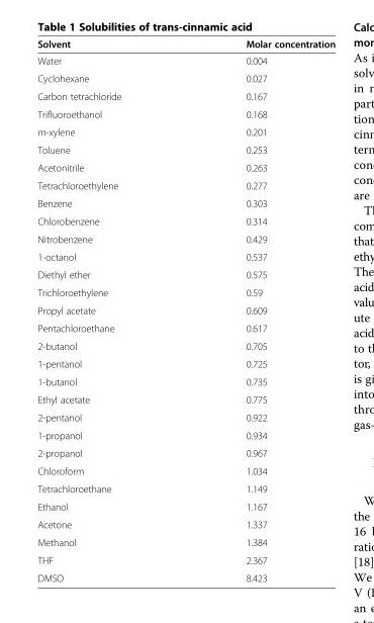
<table><thead><tr><td>Solvent</td><td>Molar concentration</td></tr></thead><tbody><tr><td>Water</td><td>0.004</td></tr><tr><td>Cyclohexane</td><td>0.027</td></tr><tr><td>Carbon tetrachloride</td><td>0.167</td></tr><tr><td>Trifluoroethanol</td><td>0.168</td></tr><tr><td>m-xylene</td><td>0.201</td></tr><tr><td>Toluene</td><td>0.253</td></tr><tr><td>Acetonitrile</td><td>0.263</td></tr><tr><td>Tetrachloroethylene</td><td>0.277</td></tr><tr><td>Benzene</td><td>0.303</td></tr><tr><td>Chlorobenzene</td><td>0.314</td></tr><tr><td>Nitrobenzene</td><td>0.429</td></tr><tr><td>1-octanol</td><td>0.537</td></tr><tr><td>Diethyl ether</td><td>0.575</td></tr><tr><td>Trichloroethylene</td><td>0.59</td></tr><tr><td>Propyl acetate</td><td>0.609</td></tr><tr><td>Pentachloroethane</td><td>0.617</td></tr><tr><td>2-butanol</td><td>0.705</td></tr><tr><td>1-pentanol</td><td>0.725</td></tr><tr><td>1-butanol</td><td>0.735</td></tr><tr><td>Ethyl acetate</td><td>0.775</td></tr><tr><td>2-pentanol</td><td>0.922</td></tr><tr><td>1-propanol</td><td>0.934</td></tr><tr><td>2-propanol</td><td>0.967</td></tr><tr><td>Chloroform</td><td>1.034</td></tr><tr><td>Tetrachloroethane</td><td>1.149</td></tr><tr><td>Ethanol</td><td>1.167</td></tr><tr><td>Acetone</td><td>1.337</td></tr><tr><td>Methanol</td><td>1.384</td></tr><tr><td>THF</td><td>2.367</td></tr><tr><td>DMSO</td><td>8.423</td></tr></tbody></table>